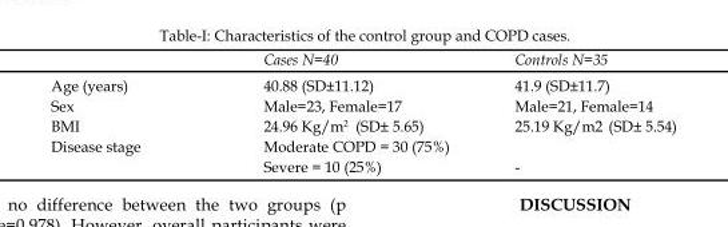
<table><thead><tr><td></td><td>Cases N=40</td><td>Controls N=35</td></tr></thead><tbody><tr><td>Age (years)</td><td>40.88 (SD±11.12)</td><td>41.9 (SD±11.7)</td></tr><tr><td>Sex</td><td>Male=23, Female=17</td><td>Male=21, Female=14</td></tr><tr><td>BMI</td><td>24.96 Kg/m<sup>2</sup> (SD± 5.65)</td><td>25.19 Kg/m<sup>2</sup> (SD± 5.54)</td></tr><tr><td>Disease stage</td><td>Moderate COPD = 30 (75%) Severe = 10 (25%)</td><td>-</td></tr></tbody></table>